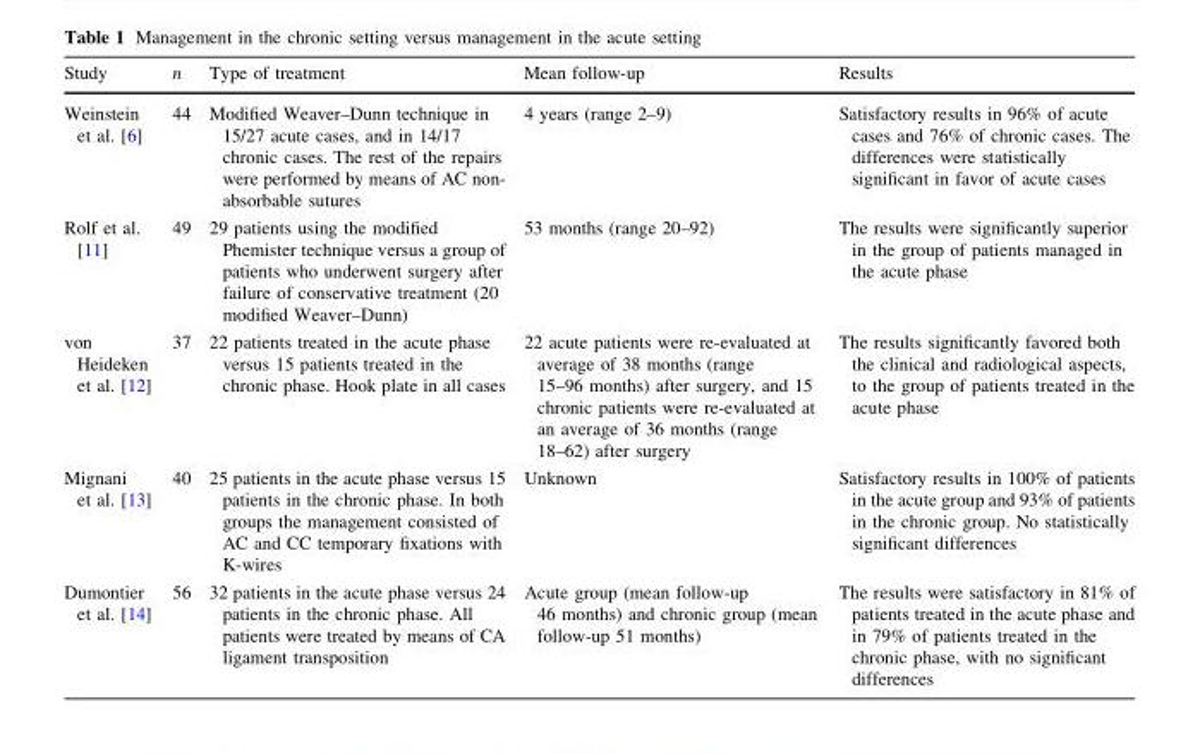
<table><thead><tr><td>Study</td><td>n</td><td>Type of treatment</td><td>Mean follow-up</td><td>Results</td></tr></thead><tbody><tr><td>Weinstein et al. [6]</td><td>44</td><td>Modified Weaver–Dunn technique in 15/27 acute cases, and in 14/17 chronic cases. The rest of the repairs were performed by means of AC non- absorbable sutures</td><td>4 years (range 2–9)</td><td>Satisfactory results in 96% of acute cases and 76% of chronic cases. The differences were statistically significant in favor of acute cases</td></tr><tr><td>Rolf et al. [11]</td><td>49</td><td>29 patients using the modified Phemister technique versus a group of patients who underwent surgery after failure of conservative treatment (20 modified Weaver–Dunn)</td><td>53 months (range 20–92)</td><td>The results were significantly superior in the group of patients managed in the acute phase</td></tr><tr><td>von Heideken et al. [12]</td><td>37</td><td>22 patients treated in the acute phase versus 15 patients treated in the chronic phase. Hook plate in all cases</td><td>22 acute patients were re-evaluated at average of 38 months (range 15–96 months) after surgery, and 15 chronic patients were re-evaluated at an average of 36 months (range 18–62) after surgery</td><td>The results significantly favored both the clinical and radiological aspects, to the group of patients treated in the acute phase</td></tr><tr><td>Mignani et al. [13]</td><td>40</td><td>25 patients in the acute phase versus 15 patients in the chronic phase. In both groups the management consisted of AC and CC temporary fixations with K-wires</td><td>Unknown</td><td>Satisfactory results in 100% of patients in the acute group and 93% of patients in the chronic group. No statistically significant differences</td></tr><tr><td>Dumontier et al. [14]</td><td>56</td><td>32 patients in the acute phase versus 24 patients in the chronic phase. All patients were treated by means of CA ligament transposition</td><td>Acute group (mean follow-up 46 months) and chronic group (mean follow-up 51 months)</td><td>The results were satisfactory in 81% of patients treated in the acute phase and in 79% of patients treated in the chronic phase, with no significant differences</td></tr></tbody></table>